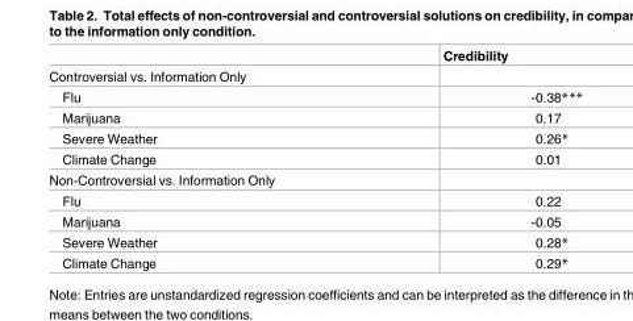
<table><thead><tr><td></td><td>Credibility</td></tr></thead><tbody><tr><td colspan="2">Controversial vs. Information Only</td></tr><tr><td>Flu</td><td>-0.38***</td></tr><tr><td>Marijuana</td><td>0.17</td></tr><tr><td>Severe Weather</td><td>0.26*</td></tr><tr><td>Climate Change</td><td>0.01</td></tr><tr><td colspan="2">Non-Controversial vs. Information Only</td></tr><tr><td>Flu</td><td>0.22</td></tr><tr><td>Marijuana</td><td>-0.05</td></tr><tr><td>Severe Weather</td><td>0.28*</td></tr><tr><td>Climate Change</td><td>0.29*</td></tr></tbody></table>